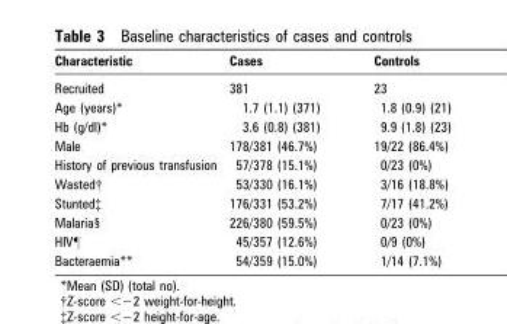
<table><thead><tr><td>Characteristic</td><td>Cases</td><td>Controls</td></tr></thead><tbody><tr><td>Recruited</td><td>381</td><td>23</td></tr><tr><td>Age (years)*</td><td>1.7 (1.1) (371)</td><td>1.8 (0.9) (21)</td></tr><tr><td>Hb (g/dl)*</td><td>3.6 (0.8) (381)</td><td>9.9 (1.8) (23)</td></tr><tr><td>Male</td><td>178/381 (46.7%)</td><td>19/22 (86.4%)</td></tr><tr><td>History of previous transfusion</td><td>57/378 (15.1%)</td><td>0/23 (0%)</td></tr><tr><td>Wasted†</td><td>53/330 (16.1%)</td><td>3/16 (18.8%)</td></tr><tr><td>Stunted‡</td><td>176/331 (53.2%)</td><td>7/17 (41.2%)</td></tr><tr><td>Malaria§</td><td>226/380 (59.5%)</td><td>0/23 (0%)</td></tr><tr><td>HIV¶</td><td>45/357 (12.6%)</td><td>0/9 (0%)</td></tr><tr><td>Bacteraemia**</td><td>54/359 (15.0%)</td><td>1/14 (7.1%)</td></tr></tbody></table>